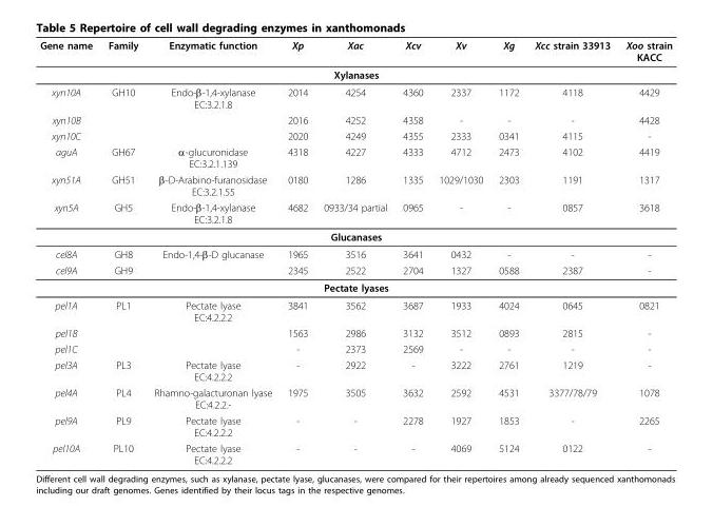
<table><thead><tr><td>Gene name</td><td>Family</td><td>Enzymatic function</td><td>Xp</td><td>Xac</td><td>Xcv</td><td>Xv</td><td>Xg</td><td>Xcc strain 33913</td><td>Xoo strain KACC</td></tr></thead><tbody><tr><td colspan="10">Xylanases</td></tr><tr><td>xyn10A</td><td>GH10</td><td>Endo-β-1,4-xylanase EC:3.2.1.8</td><td>2014</td><td>4254</td><td>4360</td><td>2337</td><td>1172</td><td>4118</td><td>4429</td></tr><tr><td>xyn10B</td><td></td><td></td><td>2016</td><td>4252</td><td>4358</td><td>-</td><td>-</td><td>-</td><td>4428</td></tr><tr><td>xyn10C</td><td></td><td></td><td>2020</td><td>4249</td><td>4355</td><td>2333</td><td>0341</td><td>4115</td><td>-</td></tr><tr><td>aguA</td><td>GH67</td><td>α-glucuronidase EC:3.2.1.139</td><td>4318</td><td>4227</td><td>4333</td><td>4712</td><td>2473</td><td>4102</td><td>4419</td></tr><tr><td>xyn51A</td><td>GH51</td><td>β-D-Arabino-furanosidase EC:3.2.1.55</td><td>0180</td><td>1286</td><td>1335</td><td>1029/1030</td><td>2303</td><td>1191</td><td>1317</td></tr><tr><td>xyn5A</td><td>GH5</td><td>Endo-β-1,4-xylanase EC:3.2.1.8</td><td>4682</td><td>0933/34 partial</td><td>0965</td><td>-</td><td>-</td><td>0857</td><td>3618</td></tr><tr><td colspan="10">Glucanases</td></tr><tr><td>cel8A</td><td>GH8</td><td>Endo-1,4-β-D glucanase</td><td>1965</td><td>3516</td><td>3641</td><td>0432</td><td>-</td><td>-</td><td>-</td></tr><tr><td>cel9A</td><td>GH9</td><td></td><td>2345</td><td>2522</td><td>2704</td><td>1327</td><td>0588</td><td>2387</td><td>-</td></tr><tr><td colspan="10">Pectate lyases</td></tr><tr><td>pel1A</td><td>PL1</td><td>Pectate lyase EC:4.2.2.2</td><td>3841</td><td>3562</td><td>3687</td><td>1933</td><td>4024</td><td>0645</td><td>0821</td></tr><tr><td>pel1B</td><td></td><td></td><td>1563</td><td>2986</td><td>3132</td><td>3512</td><td>0893</td><td>2815</td><td>-</td></tr><tr><td>pel1C</td><td></td><td></td><td>-</td><td>2373</td><td>2569</td><td>-</td><td>-</td><td>-</td><td>-</td></tr><tr><td>pel3A</td><td>PL3</td><td>Pectate lyase EC:4.2.2.2</td><td>-</td><td>2922</td><td>-</td><td>3222</td><td>2761</td><td>1219</td><td>-</td></tr><tr><td>pel4A</td><td>PL4</td><td>Rhamno-galacturonan lyase EC:4.2.2.-</td><td>1975</td><td>3505</td><td>3632</td><td>2592</td><td>4531</td><td>3377/78/79</td><td>1078</td></tr><tr><td>pel9A</td><td>PL9</td><td>Pectate lyase EC:4.2.2.2</td><td>-</td><td>-</td><td>2278</td><td>1927</td><td>1853</td><td>-</td><td>2265</td></tr><tr><td>pel10A</td><td>PL10</td><td>Pectate lyase EC:4.2.2.2</td><td>-</td><td>-</td><td>-</td><td>4069</td><td>5124</td><td>0122</td><td>-</td></tr></tbody></table>